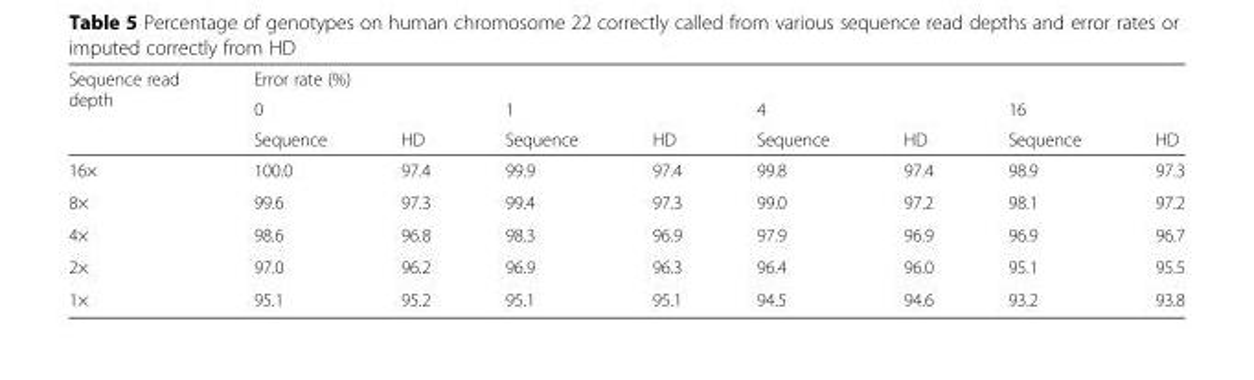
<table><thead><tr><td rowspan="3">Sequence read depth</td><td colspan="8">Error rate (%)</td></tr><tr><td colspan="2">0</td><td colspan="2">1</td><td colspan="2">4</td><td colspan="2">16</td></tr><tr><td>Sequence</td><td>HD</td><td>Sequence</td><td>HD</td><td>Sequence</td><td>HD</td><td>Sequence</td><td>HD</td></tr></thead><tbody><tr><td>16×</td><td>100.0</td><td>97.4</td><td>99.9</td><td>97.4</td><td>99.8</td><td>97.4</td><td>98.9</td><td>97.3</td></tr><tr><td>8×</td><td>99.6</td><td>97.3</td><td>99.4</td><td>97.3</td><td>99.0</td><td>97.2</td><td>98.1</td><td>97.2</td></tr><tr><td>4×</td><td>98.6</td><td>96.8</td><td>98.3</td><td>96.9</td><td>97.9</td><td>96.9</td><td>96.9</td><td>96.7</td></tr><tr><td>2×</td><td>97.0</td><td>96.2</td><td>96.9</td><td>96.3</td><td>96.4</td><td>96.0</td><td>95.1</td><td>95.5</td></tr><tr><td>1×</td><td>95.1</td><td>95.2</td><td>95.1</td><td>95.1</td><td>94.5</td><td>94.6</td><td>93.2</td><td>93.8</td></tr></tbody></table>